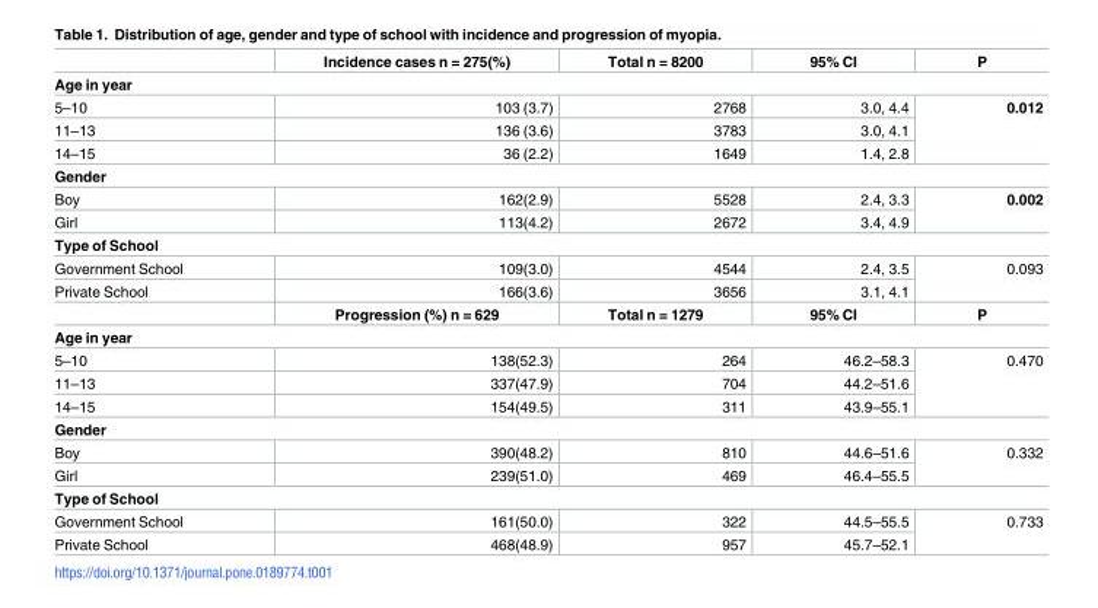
<table><thead><tr><td></td><td>Incidence cases n = 275(%)</td><td>Total n = 8200</td><td>95% CI</td><td>P</td></tr></thead><tbody><tr><td colspan="5">Age in year</td></tr><tr><td>5–10</td><td>103 (3.7)</td><td>2768</td><td>3.0, 4.4</td><td rowspan="3">0.012</td></tr><tr><td>11–13</td><td>136 (3.6)</td><td>3783</td><td>3.0, 4.1</td></tr><tr><td>14–15</td><td>36 (2.2)</td><td>1649</td><td>1.4, 2.8</td></tr><tr><td colspan="5">Gender</td></tr><tr><td>Boy</td><td>162(2.9)</td><td>5528</td><td>2.4, 3.3</td><td rowspan="2">0.002</td></tr><tr><td>Girl</td><td>113(4.2)</td><td>2672</td><td>3.4, 4.9</td></tr><tr><td colspan="5">Type of School</td></tr><tr><td>Government School</td><td>109(3.0)</td><td>4544</td><td>2.4, 3.5</td><td rowspan="2">0.093</td></tr><tr><td rowspan="2">Private School</td><td>166(3.6)</td><td>3656</td><td>3.1, 4.1</td></tr><tr><td>Progression (%) n = 629</td><td>Total n = 1279</td><td>95% CI</td><td>P</td></tr><tr><td colspan="5">Age in year</td></tr><tr><td>5–10</td><td>138(52.3)</td><td>264</td><td>46.2–58.3</td><td rowspan="3">0.470</td></tr><tr><td>11–13</td><td>337(47.9)</td><td>704</td><td>44.2–51.6</td></tr><tr><td>14–15</td><td>154(49.5)</td><td>311</td><td>43.9–55.1</td></tr><tr><td colspan="5">Gender</td></tr><tr><td>Boy</td><td>390(48.2)</td><td>810</td><td>44.6–51.6</td><td rowspan="2">0.332</td></tr><tr><td>Girl</td><td>239(51.0)</td><td>469</td><td>46.4–55.5</td></tr><tr><td colspan="5">Type of School</td></tr><tr><td>Government School</td><td>161(50.0)</td><td>322</td><td>44.5–55.5</td><td rowspan="2">0.733</td></tr><tr><td>Private School</td><td>468(48.9)</td><td>957</td><td>45.7–52.1</td></tr></tbody></table>